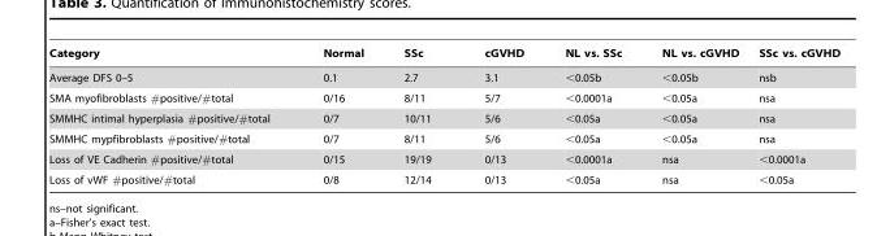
<table><thead><tr><td>Category</td><td>Normal</td><td>SSc</td><td>cGVHD</td><td>NL vs. SSc</td><td>NL vs. cGVHD</td><td>SSc vs. cGVHD</td></tr></thead><tbody><tr><td>Average DFS 0–5</td><td>0.1</td><td>2.7</td><td>3.1</td><td>&lt;0.05b</td><td>&lt;0.05b</td><td>nsb</td></tr><tr><td>SMA myofibroblasts #positive/#total</td><td>0/16</td><td>8/11</td><td>5/7</td><td>&lt;0.0001a</td><td>&lt;0.05a</td><td>nsa</td></tr><tr><td>SMMHC intimal hyperplasia #positive/#total</td><td>0/7</td><td>10/11</td><td>5/6</td><td>&lt;0.05a</td><td>&lt;0.05a</td><td>nsa</td></tr><tr><td>SMMHC mypfibroblasts #positive/#total</td><td>0/7</td><td>8/11</td><td>5/6</td><td>&lt;0.05a</td><td>&lt;0.05a</td><td>nsa</td></tr><tr><td>Loss of VE Cadherin #positive/#total</td><td>0/15</td><td>19/19</td><td>0/13</td><td>&lt;0.0001a</td><td>nsa</td><td>&lt;0.0001a</td></tr><tr><td>Loss of vWF #positive/#total</td><td>0/8</td><td>12/14</td><td>0/13</td><td>&lt;0.05a</td><td>nsa</td><td>&lt;0.05a</td></tr></tbody></table>